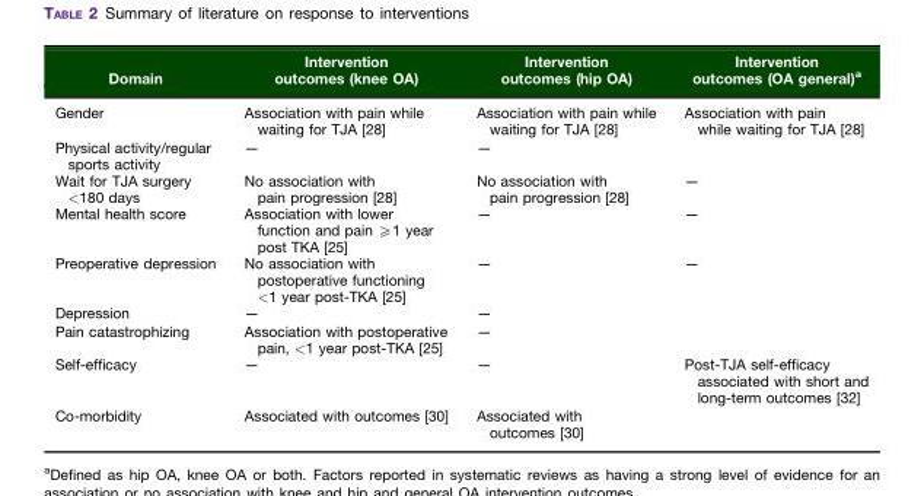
<table><thead><tr><td>Domain</td><td>Intervention outcomes (knee OA)</td><td>Intervention outcomes (hip OA)</td><td>Intervention outcomes (OA general)<sup>a</sup></td></tr></thead><tbody><tr><td>Gender</td><td>Association with pain while waiting for TJA [28]</td><td>Association with pain while waiting for TJA [28]</td><td>Association with pain while waiting for TJA [28]</td></tr><tr><td>Physical activity/regular sports activity</td><td>—</td><td>—</td><td></td></tr><tr><td>Wait for TJA surgery &lt;180 days</td><td>No association with pain progression [28]</td><td>No association with pain progression [28]</td><td>—</td></tr><tr><td>Mental health score</td><td>Association with lower function and pain ≥1 year post TKA [25]</td><td>—</td><td>—</td></tr><tr><td>Preoperative depression</td><td>No association with postoperative functioning &lt;1 year post-TKA [25]</td><td>—</td><td>—</td></tr><tr><td>Depression</td><td>—</td><td>—</td><td></td></tr><tr><td>Pain catastrophizing</td><td>Association with postoperative pain, &lt;1 year post-TKA [25]</td><td>—</td><td></td></tr><tr><td>Self-efficacy</td><td>—</td><td>—</td><td>Post-TJA self-efficacy associated with short and long-term outcomes [32]</td></tr><tr><td>Co-morbidity</td><td>Associated with outcomes [30]</td><td>Associated with outcomes [30]</td><td></td></tr></tbody></table>